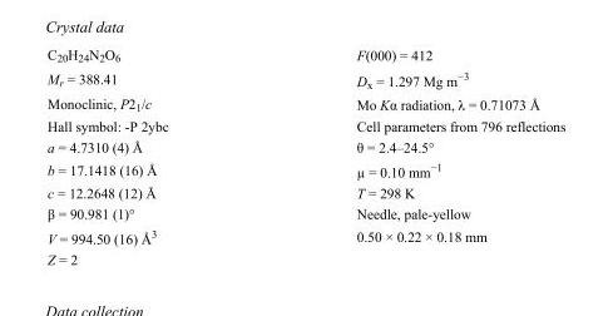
<table><tbody><tr><td>C<sub>20</sub>H<sub>24</sub>N<sub>2</sub>O<sub>6</sub></td><td>F(000) = 412</td></tr><tr><td>M<sub>r</sub> = 388.41</td><td>D<sub>x</sub> = 1.297 Mg m<sup>−3</sup></td></tr><tr><td>Monoclinic, P2<sub>1</sub>/c</td><td>Mo Kα radiation, λ = 0.71073 Å</td></tr><tr><td>Hall symbol: -P 2ybc</td><td>Cell parameters from 796 reflections</td></tr><tr><td>a = 4.7310 (4) Å</td><td>θ = 2.4–24.5°</td></tr><tr><td>b = 17.1418 (16) Å</td><td>µ = 0.10 mm<sup>−1</sup></td></tr><tr><td>c = 12.2648 (12) Å</td><td>T = 298 K</td></tr><tr><td>β = 90.981 (1)°</td><td>Needle, pale-yellow</td></tr><tr><td>V = 994.50 (16) Å<sup>3</sup></td><td>0.50 × 0.22 × 0.18 mm</td></tr><tr><td>Z = 2</td><td></td></tr></tbody></table>